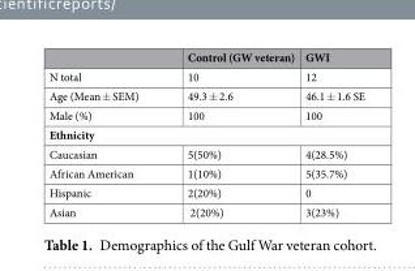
<table><thead><tr><td></td><td>Control (GW veteran)</td><td>GWI</td></tr></thead><tbody><tr><td>N total</td><td>10</td><td>12</td></tr><tr><td>Age (Mean ± SEM)</td><td>49.3 ± 2.6</td><td>46.1 ± 1.6 SE</td></tr><tr><td>Male (%)</td><td>100</td><td>100</td></tr><tr><td colspan="3">Ethnicity</td></tr><tr><td>Caucasian</td><td>5(50%)</td><td>4(28.5%)</td></tr><tr><td>African American</td><td>1(10%)</td><td>5(35.7%)</td></tr><tr><td>Hispanic</td><td>2(20%)</td><td>0</td></tr><tr><td>Asian</td><td>2(20%)</td><td>3(23%)</td></tr></tbody></table>